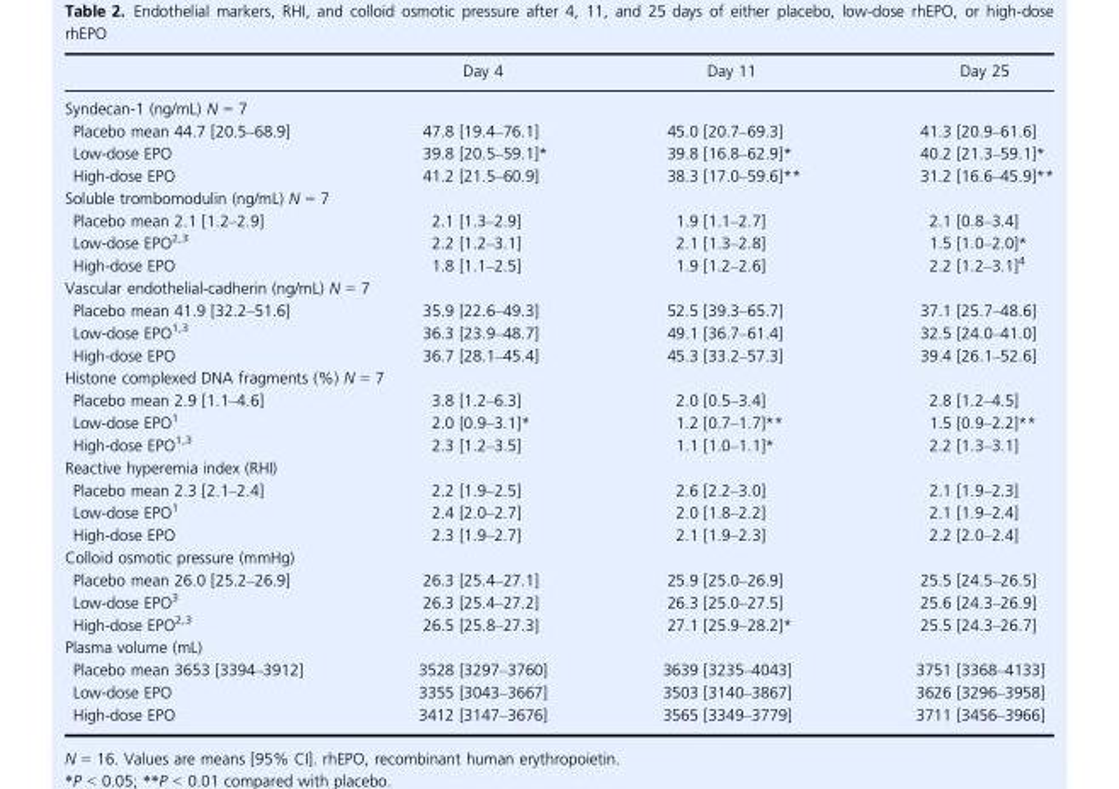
<table><thead><tr><td></td><td>Day 4</td><td>Day 11</td><td>Day 25</td></tr></thead><tbody><tr><td colspan="4">Syndecan-1 (ng/mL) N = 7</td></tr><tr><td>Placebo mean 44.7 [20.5–68.9]</td><td>47.8 [19.4–76.1]</td><td>45.0 [20.7–69.3]</td><td>41.3 [20.9–61.6]</td></tr><tr><td>Low-dose EPO</td><td>39.8 [20.5–59.1]*</td><td>39.8 [16.8–62.9]*</td><td>40.2 [21.3–59.1]*</td></tr><tr><td>High-dose EPO</td><td>41.2 [21.5–60.9]</td><td>38.3 [17.0–59.6]**</td><td>31.2 [16.6–45.9]**</td></tr><tr><td colspan="4">Soluble trombomodulin (ng/mL) N = 7</td></tr><tr><td>Placebo mean 2.1 [1.2–2.9]</td><td>2.1 [1.3–2.9]</td><td>1.9 [1.1–2.7]</td><td>2.1 [0.8–3.4]</td></tr><tr><td>Low-dose EPO<sup>2,</sup>3</td><td>2.2 [1.2–3.1]</td><td>2.1 [1.3–2.8]</td><td>1.5 [1.0–2.0]*</td></tr><tr><td>High-dose EPO</td><td>1.8 [1.1–2.5]</td><td>1.9 [1.2–2.6]</td><td>2.2 [1.2–3.1]<sup>4</sup></td></tr><tr><td colspan="4">Vascular endothelial-cadherin (ng/mL) N = 7</td></tr><tr><td>Placebo mean 41.9 [32.2–51.6]</td><td>35.9 [22.6–49.3]</td><td>52.5 [39.3–65.7]</td><td>37.1 [25.7–48.6]</td></tr><tr><td>Low-dose EPO<sup>1,</sup>3</td><td>36.3 [23.9–48.7]</td><td>49.1 [36.7–61.4]</td><td>32.5 [24.0–41.0]</td></tr><tr><td>High-dose EPO</td><td>36.7 [28.1–45.4]</td><td>45.3 [33.2–57.3]</td><td>39.4 [26.1–52.6]</td></tr><tr><td colspan="4">Histone complexed DNA fragments (%) N = 7</td></tr><tr><td>Placebo mean 2.9 [1.1–4.6]</td><td>3.8 [1.2–6.3]</td><td>2.0 [0.5–3.4]</td><td>2.8 [1.2–4.5]</td></tr><tr><td>Low-dose EPO<sup>1</sup></td><td>2.0 [0.9–3.1]*</td><td>1.2 [0.7–1.7]**</td><td>1.5 [0.9–2.2]**</td></tr><tr><td>High-dose EPO<sup>1,</sup>3</td><td>2.3 [1.2–3.5]</td><td>1.1 [1.0–1.1]*</td><td>2.2 [1.3–3.1]</td></tr><tr><td colspan="4">Reactive hyperemia index (RHI)</td></tr><tr><td>Placebo mean 2.3 [2.1–2.4]</td><td>2.2 [1.9–2.5]</td><td>2.6 [2.2–3.0]</td><td>2.1 [1.9–2.3]</td></tr><tr><td>Low-dose EPO<sup>1</sup></td><td>2.4 [2.0–2.7]</td><td>2.0 [1.8–2.2]</td><td>2.1 [1.9–2.4]</td></tr><tr><td>High-dose EPO</td><td>2.3 [1.9–2.7]</td><td>2.1 [1.9–2.3]</td><td>2.2 [2.0–2.4]</td></tr><tr><td colspan="4">Colloid osmotic pressure (mmHg)</td></tr><tr><td>Placebo mean 26.0 [25.2–26.9]</td><td>26.3 [25.4–27.1]</td><td>25.9 [25.0–26.9]</td><td>25.5 [24.5–26.5]</td></tr><tr><td>Low-dose EPO<sup>3</sup></td><td>26.3 [25.4–27.2]</td><td>26.3 [25.0–27.5]</td><td>25.6 [24.3–26.9]</td></tr><tr><td>High-dose EPO<sup>2,</sup>3</td><td>26.5 [25.8–27.3]</td><td>27.1 [25.9–28.2]*</td><td>25.5 [24.3–26.7]</td></tr><tr><td colspan="4">Plasma volume (mL)</td></tr><tr><td>Placebo mean 3653 [3394–3912]</td><td>3528 [3297–3760]</td><td>3639 [3235–4043]</td><td>3751 [3368–4133]</td></tr><tr><td>Low-dose EPO</td><td>3355 [3043–3667]</td><td>3503 [3140–3867]</td><td>3626 [3296–3958]</td></tr><tr><td>High-dose EPO</td><td>3412 [3147–3676]</td><td>3565 [3349–3779]</td><td>3711 [3456–3966]</td></tr></tbody></table>